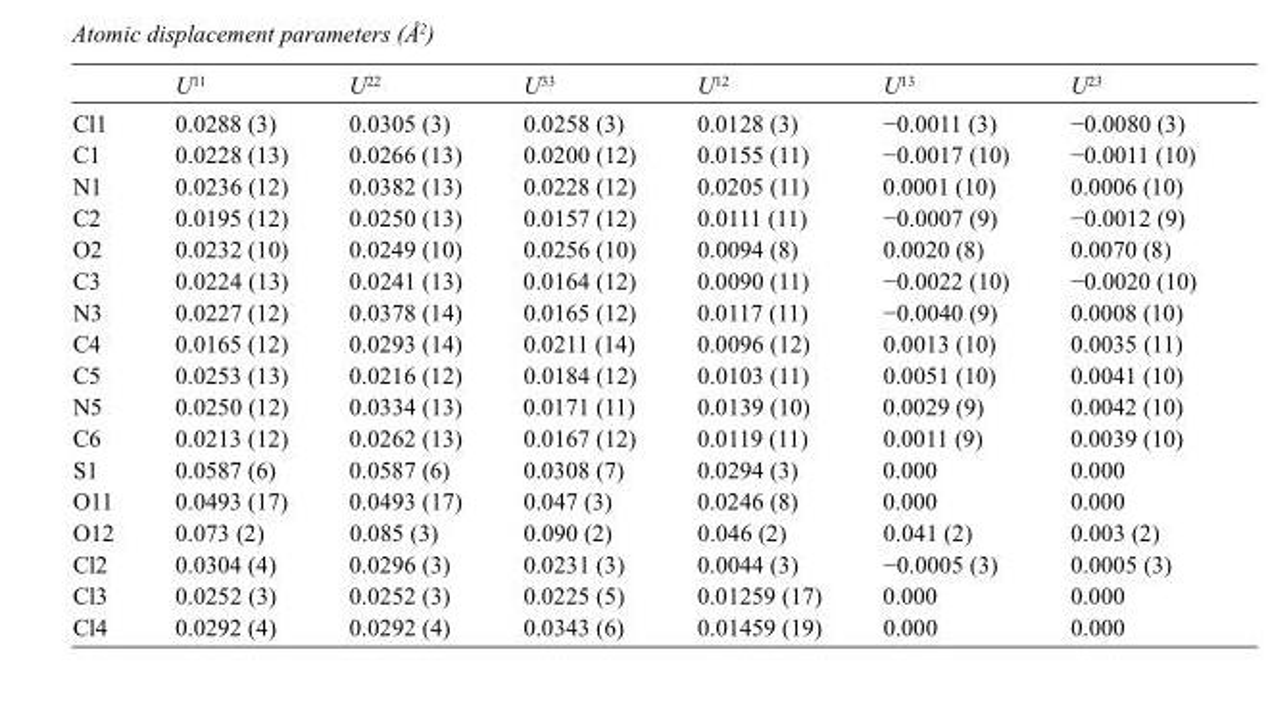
<table><thead><tr><td></td><td>U<sup>11</sup></td><td>U<sup>22</sup></td><td>U<sup>33</sup></td><td>U<sup>12</sup></td><td>U<sup>13</sup></td><td>U<sup>23</sup></td></tr></thead><tbody><tr><td>Cl1</td><td>0.0288 (3)</td><td>0.0305 (3)</td><td>0.0258 (3)</td><td>0.0128 (3)</td><td>−0.0011 (3)</td><td>−0.0080 (3)</td></tr><tr><td>C1</td><td>0.0228 (13)</td><td>0.0266 (13)</td><td>0.0200 (12)</td><td>0.0155 (11)</td><td>−0.0017 (10)</td><td>−0.0011 (10)</td></tr><tr><td>N1</td><td>0.0236 (12)</td><td>0.0382 (13)</td><td>0.0228 (12)</td><td>0.0205 (11)</td><td>0.0001 (10)</td><td>0.0006 (10)</td></tr><tr><td>C2</td><td>0.0195 (12)</td><td>0.0250 (13)</td><td>0.0157 (12)</td><td>0.0111 (11)</td><td>−0.0007 (9)</td><td>−0.0012 (9)</td></tr><tr><td>O2</td><td>0.0232 (10)</td><td>0.0249 (10)</td><td>0.0256 (10)</td><td>0.0094 (8)</td><td>0.0020 (8)</td><td>0.0070 (8)</td></tr><tr><td>C3</td><td>0.0224 (13)</td><td>0.0241 (13)</td><td>0.0164 (12)</td><td>0.0090 (11)</td><td>−0.0022 (10)</td><td>−0.0020 (10)</td></tr><tr><td>N3</td><td>0.0227 (12)</td><td>0.0378 (14)</td><td>0.0165 (12)</td><td>0.0117 (11)</td><td>−0.0040 (9)</td><td>0.0008 (10)</td></tr><tr><td>C4</td><td>0.0165 (12)</td><td>0.0293 (14)</td><td>0.0211 (14)</td><td>0.0096 (12)</td><td>0.0013 (10)</td><td>0.0035 (11)</td></tr><tr><td>C5</td><td>0.0253 (13)</td><td>0.0216 (12)</td><td>0.0184 (12)</td><td>0.0103 (11)</td><td>0.0051 (10)</td><td>0.0041 (10)</td></tr><tr><td>N5</td><td>0.0250 (12)</td><td>0.0334 (13)</td><td>0.0171 (11)</td><td>0.0139 (10)</td><td>0.0029 (9)</td><td>0.0042 (10)</td></tr><tr><td>C6</td><td>0.0213 (12)</td><td>0.0262 (13)</td><td>0.0167 (12)</td><td>0.0119 (11)</td><td>0.0011 (9)</td><td>0.0039 (10)</td></tr><tr><td>S1</td><td>0.0587 (6)</td><td>0.0587 (6)</td><td>0.0308 (7)</td><td>0.0294 (3)</td><td>0.000</td><td>0.000</td></tr><tr><td>O11</td><td>0.0493 (17)</td><td>0.0493 (17)</td><td>0.047 (3)</td><td>0.0246 (8)</td><td>0.000</td><td>0.000</td></tr><tr><td>O12</td><td>0.073 (2)</td><td>0.085 (3)</td><td>0.090 (2)</td><td>0.046 (2)</td><td>0.041 (2)</td><td>0.003 (2)</td></tr><tr><td>Cl2</td><td>0.0304 (4)</td><td>0.0296 (3)</td><td>0.0231 (3)</td><td>0.0044 (3)</td><td>−0.0005 (3)</td><td>0.0005 (3)</td></tr><tr><td>Cl3</td><td>0.0252 (3)</td><td>0.0252 (3)</td><td>0.0225 (5)</td><td>0.01259 (17)</td><td>0.000</td><td>0.000</td></tr><tr><td>Cl4</td><td>0.0292 (4)</td><td>0.0292 (4)</td><td>0.0343 (6)</td><td>0.01459 (19)</td><td>0.000</td><td>0.000</td></tr></tbody></table>